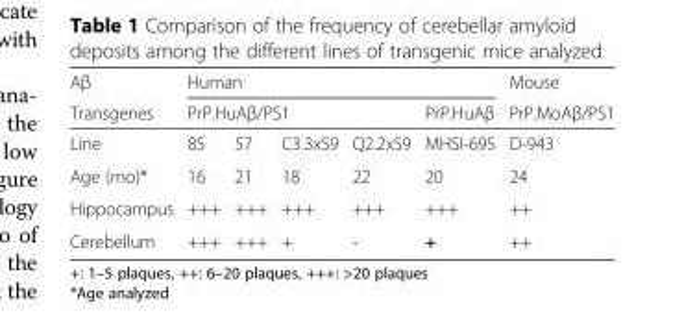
<table><thead><tr><td rowspan="3">Aβ Transgenes Line</td><td colspan="5">Human</td><td rowspan="3">Mouse PrP.MoAβ/PS1 D-943</td></tr><tr><td colspan="4">PrP.HuAβ/PS1</td><td rowspan="2">PrP.HuAβ MHSI-695</td></tr><tr><td>85</td><td>57</td><td>C3.3xS9</td><td>Q2.2xS9</td></tr></thead><tbody><tr><td>Age (mo)*</td><td>16</td><td>21</td><td>18</td><td>22</td><td>20</td><td>24</td></tr><tr><td>Hippocampus</td><td>+++</td><td>+++</td><td>+++</td><td>+++</td><td>+++</td><td>++</td></tr><tr><td>Cerebellum</td><td>+++</td><td>+++</td><td>+</td><td>-</td><td>+</td><td>++</td></tr></tbody></table>